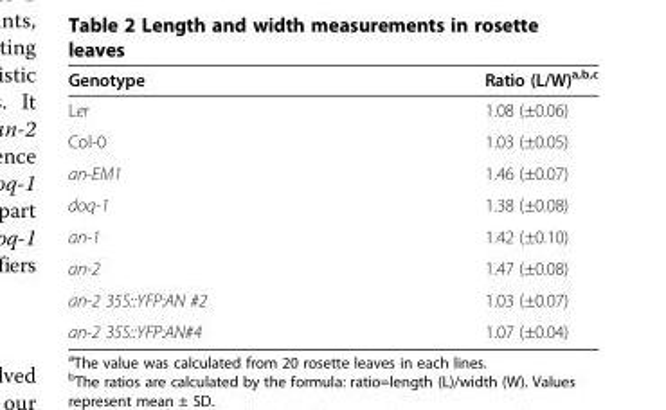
<table><thead><tr><td>Genotype</td><td>Ratio (L/W)<sup>a,b,c</sup></td></tr></thead><tbody><tr><td>Ler</td><td>1.08 (±0.06)</td></tr><tr><td>Col-0</td><td>1.03 (±0.05)</td></tr><tr><td>an-EM1</td><td>1.46 (±0.07)</td></tr><tr><td>doq-1</td><td>1.38 (±0.08)</td></tr><tr><td>an-1</td><td>1.42 (±0.10)</td></tr><tr><td>an-2</td><td>1.47 (±0.08)</td></tr><tr><td>an-2 35S::YFP:AN #2</td><td>1.03 (±0.07)</td></tr><tr><td>an-2 35S::YFP:AN#4</td><td>1.07 (±0.04)</td></tr></tbody></table>